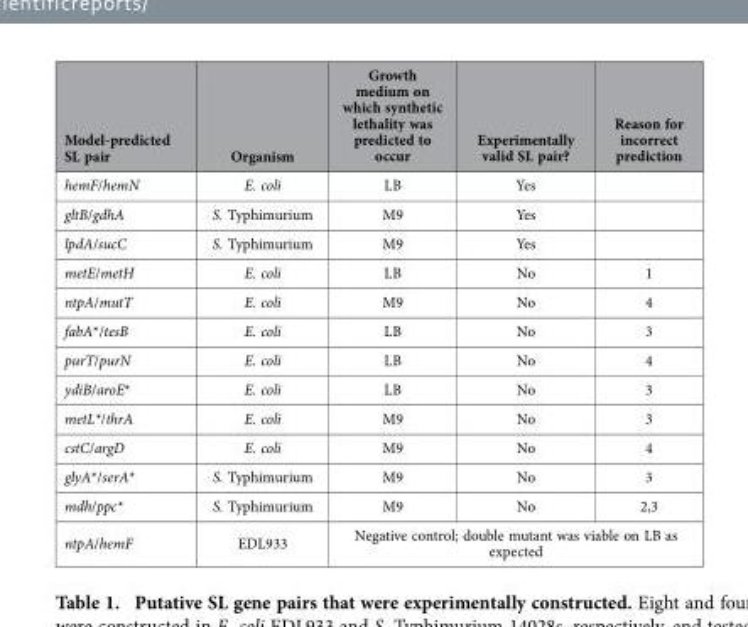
<table><thead><tr><td>Model-predicted SL pair</td><td>Organism</td><td>Growth medium on which synthetic lethality was predicted to occur</td><td>Experimentally valid SL pair?</td><td>Reason for incorrect prediction</td></tr></thead><tbody><tr><td>hemF/hemN</td><td>E. coli</td><td>LB</td><td>Yes</td><td></td></tr><tr><td>gltB/gdhA</td><td>S. Typhimurium</td><td>M9</td><td>Yes</td><td></td></tr><tr><td>lpdA/sucC</td><td>S. Typhimurium</td><td>M9</td><td>Yes</td><td></td></tr><tr><td>metE/metH</td><td>E. coli</td><td>LB</td><td>No</td><td>1</td></tr><tr><td>ntpA/mutT</td><td>E. coli</td><td>M9</td><td>No</td><td>4</td></tr><tr><td>fabA*/tesB</td><td>E. coli</td><td>LB</td><td>No</td><td>3</td></tr><tr><td>purT/purN</td><td>E. coli</td><td>LB</td><td>No</td><td>4</td></tr><tr><td>ydiB/aroE*</td><td>E. coli</td><td>LB</td><td>No</td><td>3</td></tr><tr><td>metL*/thrA</td><td>E. coli</td><td>M9</td><td>No</td><td>3</td></tr><tr><td>cstC/argD</td><td>E. coli</td><td>M9</td><td>No</td><td>4</td></tr><tr><td>glyA*/serA*</td><td>S. Typhimurium</td><td>M9</td><td>No</td><td>3</td></tr><tr><td>mdh/ppc*</td><td>S. Typhimurium</td><td>M9</td><td>No</td><td>2,3</td></tr><tr><td>ntpA/hemF</td><td>EDL933</td><td colspan="3">Negative control; double mutant was viable on LB as expected</td></tr></tbody></table>